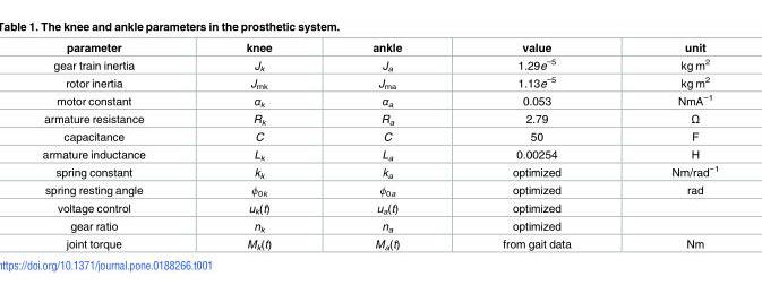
<table><thead><tr><td>parameter</td><td>knee</td><td>ankle</td><td>value</td><td>unit</td></tr></thead><tbody><tr><td>gear train inertia</td><td>J<sub>k</sub></td><td>J<sub>a</sub></td><td>1.29e<sup>−5</sup></td><td>kg m<sup>2</sup></td></tr><tr><td>rotor inertia</td><td>J<sub>mk</sub></td><td>J<sub>ma</sub></td><td>1.13e<sup>−5</sup></td><td>kg m<sup>2</sup></td></tr><tr><td>motor constant</td><td>α<sub>k</sub></td><td>α<sub>a</sub></td><td>0.053</td><td>NmA<sup>−1</sup></td></tr><tr><td>armature resistance</td><td>R<sub>k</sub></td><td>R<sub>a</sub></td><td>2.79</td><td>Ω</td></tr><tr><td>capacitance</td><td>C</td><td>C</td><td>50</td><td>F</td></tr><tr><td>armature inductance</td><td>L<sub>k</sub></td><td>L<sub>a</sub></td><td>0.00254</td><td>H</td></tr><tr><td>spring constant</td><td>k<sub>k</sub></td><td>k<sub>a</sub></td><td>optimized</td><td>Nm/rad<sup>−1</sup></td></tr><tr><td>spring resting angle</td><td>ϕ<sub>0k</sub></td><td>ϕ<sub>0a</sub></td><td>optimized</td><td>rad</td></tr><tr><td>voltage control</td><td>u<sub>k</sub>(t)</td><td>u<sub>a</sub>(t)</td><td>optimized</td><td></td></tr><tr><td>gear ratio</td><td>n<sub>k</sub></td><td>n<sub>a</sub></td><td>optimized</td><td></td></tr><tr><td>joint torque</td><td>M<sub>k</sub>(t)</td><td>M<sub>a</sub>(t)</td><td>from gait data</td><td>Nm</td></tr></tbody></table>